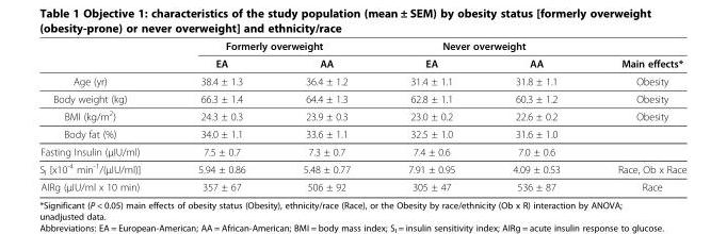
<table><thead><tr><td rowspan="2"></td><td colspan="2">Formerly overweight</td><td colspan="2">Never overweight</td><td rowspan="2">Main effects*</td></tr><tr><td>EA</td><td>AA</td><td>EA</td><td>AA</td></tr></thead><tbody><tr><td>Age (yr)</td><td>38.4 ± 1.3</td><td>36.4 ± 1.2</td><td>31.4 ± 1.1</td><td>31.8 ± 1.1</td><td>Obesity</td></tr><tr><td>Body weight (kg)</td><td>66.3 ± 1.4</td><td>64.4 ± 1.3</td><td>62.8 ± 1.1</td><td>60.3 ± 1.2</td><td>Obesity</td></tr><tr><td>BMI (kg/m<sup>2</sup>)</td><td>24.3 ± 0.3</td><td>23.9 ± 0.3</td><td>23.0 ± 0.2</td><td>22.6 ± 0.2</td><td>Obesity</td></tr><tr><td>Body fat (%)</td><td>34.0 ± 1.1</td><td>33.6 ± 1.1</td><td>32.5 ± 1.0</td><td>31.6 ± 1.0</td><td></td></tr><tr><td>Fasting Insulin (μIU/ml)</td><td>7.5 ± 0.7</td><td>7.3 ± 0.7</td><td>7.4 ± 0.6</td><td>7.0 ± 0.6</td><td></td></tr><tr><td>S<sub>I</sub> [x10<sup>-4</sup> min<sup>-1</sup>/(μIU/ml)]</td><td>5.94 ± 0.86</td><td>5.48 ± 0.77</td><td>7.91 ± 0.95</td><td>4.09 ± 0.53</td><td>Race, Ob x Race</td></tr><tr><td>AIRg (μIU/ml x 10 min)</td><td>357 ± 67</td><td>506 ± 92</td><td>305 ± 47</td><td>536 ± 87</td><td>Race</td></tr></tbody></table>